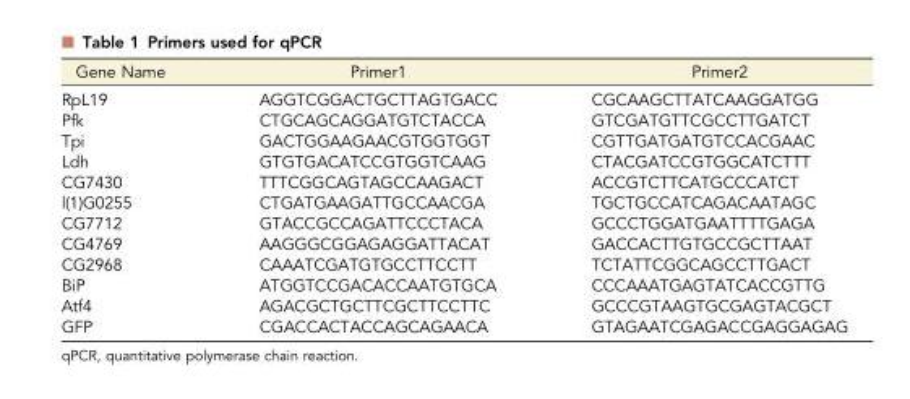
<table><thead><tr><td>Gene Name</td><td>Primer1</td><td>Primer2</td></tr></thead><tbody><tr><td>RpL19</td><td>AGGTCGGACTGCTTAGTGACC</td><td>CGCAAGCTTATCAAGGATGG</td></tr><tr><td>Pfk</td><td>CTGCAGCAGGATGTCTACCA</td><td>GTCGATGTTCGCCTTGATCT</td></tr><tr><td>Tpi</td><td>GACTGGAAGAACGTGGTGGT</td><td>CGTTGATGATGTCCACGAAC</td></tr><tr><td>Ldh</td><td>GTGTGACATCCGTGGTCAAG</td><td>CTACGATCCGTGGCATCTTT</td></tr><tr><td>CG7430</td><td>TTTCGGCAGTAGCCAAGACT</td><td>ACCGTCTTCATGCCCATCT</td></tr><tr><td>l(1)G0255</td><td>CTGATGAAGATTGCCAACGA</td><td>TGCTGCCATCAGACAATAGC</td></tr><tr><td>CG7712</td><td>GTACCGCCAGATTCCCTACA</td><td>GCCCTGGATGAATTTTGAGA</td></tr><tr><td>CG4769</td><td>AAGGGCGGAGAGGATTACAT</td><td>GACCACTTGTGCCGCTTAAT</td></tr><tr><td>CG2968</td><td>CAAATCGATGTGCCTTCCTT</td><td>TCTATTCGGCAGCCTTGACT</td></tr><tr><td>BiP</td><td>ATGGTCCGACACCAATGTGCA</td><td>CCCAAATGAGTATCACCGTTG</td></tr><tr><td>Atf4</td><td>AGACGCTGCTTCGCTTCCTTC</td><td>GCCCGTAAGTGCGAGTACGCT</td></tr><tr><td>GFP</td><td>CGACCACTACCAGCAGAACA</td><td>GTAGAATCGAGACCGAGGAGAG</td></tr></tbody></table>